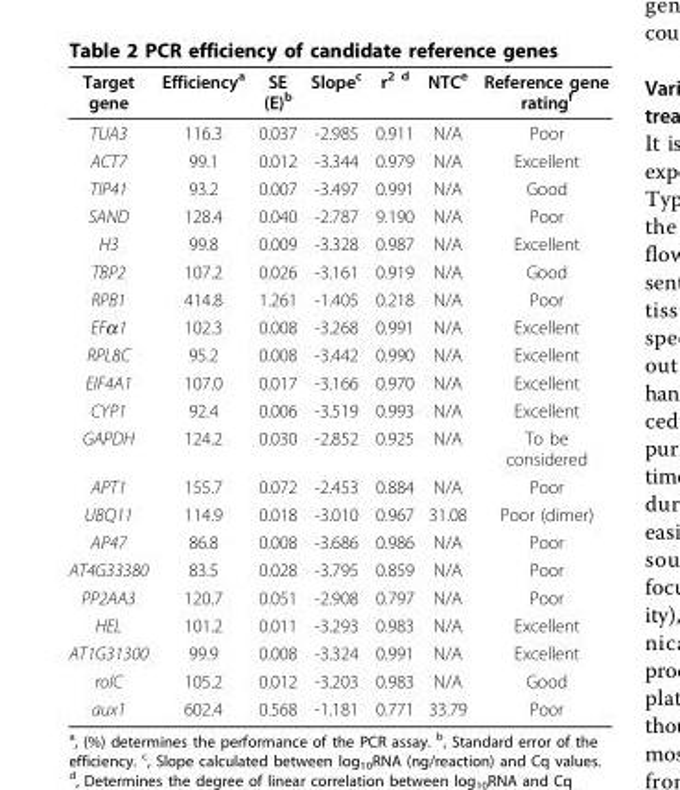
<table><thead><tr><td>Target gene</td><td>Efficiency<sup>a</sup></td><td>SE (E)<sup>b</sup></td><td>Slope<sup>c</sup></td><td>r<sup>2 d</sup></td><td>NTC<sup>e</sup></td><td>Reference gene rating<sup>f</sup></td></tr></thead><tbody><tr><td>TUA3</td><td>116.3</td><td>0.037</td><td>-2.985</td><td>0.911</td><td>N/A</td><td>Poor</td></tr><tr><td>ACT7</td><td>99.1</td><td>0.012</td><td>-3.344</td><td>0.979</td><td>N/A</td><td>Excellent</td></tr><tr><td>TIP41</td><td>93.2</td><td>0.007</td><td>-3.497</td><td>0.991</td><td>N/A</td><td>Good</td></tr><tr><td>SAND</td><td>128.4</td><td>0.040</td><td>-2.787</td><td>9.190</td><td>N/A</td><td>Poor</td></tr><tr><td>H3</td><td>99.8</td><td>0.009</td><td>-3.328</td><td>0.987</td><td>N/A</td><td>Excellent</td></tr><tr><td>TBP2</td><td>107.2</td><td>0.026</td><td>-3.161</td><td>0.919</td><td>N/A</td><td>Good</td></tr><tr><td>RPB1</td><td>414.8</td><td>1.261</td><td>-1.405</td><td>0.218</td><td>N/A</td><td>Poor</td></tr><tr><td>EFα1</td><td>102.3</td><td>0.008</td><td>-3.268</td><td>0.991</td><td>N/A</td><td>Excellent</td></tr><tr><td>RPL8C</td><td>95.2</td><td>0.008</td><td>-3.442</td><td>0.990</td><td>N/A</td><td>Excellent</td></tr><tr><td>EIF4A1</td><td>107.0</td><td>0.017</td><td>-3.166</td><td>0.970</td><td>N/A</td><td>Excellent</td></tr><tr><td>CYP1</td><td>92.4</td><td>0.006</td><td>-3.519</td><td>0.993</td><td>N/A</td><td>Excellent</td></tr><tr><td>GAPDH</td><td>124.2</td><td>0.030</td><td>-2.852</td><td>0.925</td><td>N/A</td><td>To be considered</td></tr><tr><td>APT1</td><td>155.7</td><td>0.072</td><td>-2.453</td><td>0.884</td><td>N/A</td><td>Poor</td></tr><tr><td>UBQ11</td><td>114.9</td><td>0.018</td><td>-3.010</td><td>0.967</td><td>31.08</td><td>Poor (dimer)</td></tr><tr><td>AP47</td><td>86.8</td><td>0.008</td><td>-3.686</td><td>0.986</td><td>N/A</td><td>Poor</td></tr><tr><td>AT4G33380</td><td>83.5</td><td>0.028</td><td>-3.795</td><td>0.859</td><td>N/A</td><td>Poor</td></tr><tr><td>PP2AA3</td><td>120.7</td><td>0.051</td><td>-2.908</td><td>0.797</td><td>N/A</td><td>Poor</td></tr><tr><td>HEL</td><td>101.2</td><td>0.011</td><td>-3.293</td><td>0.983</td><td>N/A</td><td>Excellent</td></tr><tr><td>AT1G31300</td><td>99.9</td><td>0.008</td><td>-3.324</td><td>0.991</td><td>N/A</td><td>Excellent</td></tr><tr><td>rolC</td><td>105.2</td><td>0.012</td><td>-3.203</td><td>0.983</td><td>N/A</td><td>Good</td></tr><tr><td>aux1</td><td>602.4</td><td>0.568</td><td>-1.181</td><td>0.771</td><td>33.79</td><td>Poor</td></tr></tbody></table>